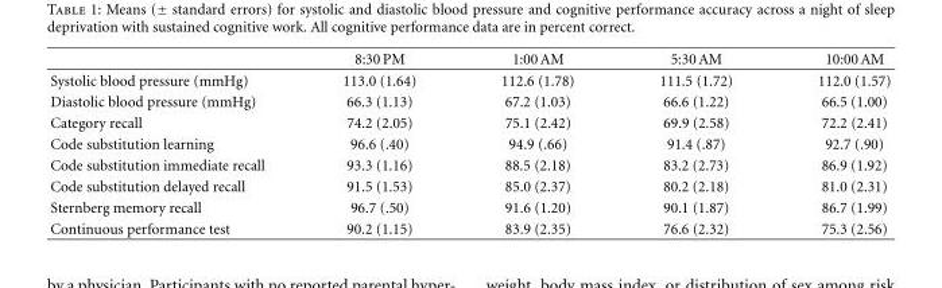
<table><thead><tr><td></td><td>8:30 PM</td><td>1:00 AM</td><td>5:30 AM</td><td>10:00 AM</td></tr></thead><tbody><tr><td>Systolic blood pressure (mmHg)</td><td>113.0 (1.64)</td><td>112.6 (1.78)</td><td>111.5 (1.72)</td><td>112.0 (1.57)</td></tr><tr><td>Diastolic blood pressure (mmHg)</td><td>66.3 (1.13)</td><td>67.2 (1.03)</td><td>66.6 (1.22)</td><td>66.5 (1.00)</td></tr><tr><td>Category recall</td><td>74.2 (2.05)</td><td>75.1 (2.42)</td><td>69.9 (2.58)</td><td>72.2 (2.41)</td></tr><tr><td>Code substitution learning</td><td>96.6 (.40)</td><td>94.9 (.66)</td><td>91.4 (.87)</td><td>92.7 (.90)</td></tr><tr><td>Code substitution immediate recall</td><td>93.3 (1.16)</td><td>88.5 (2.18)</td><td>83.2 (2.73)</td><td>86.9 (1.92)</td></tr><tr><td>Code substitution delayed recall</td><td>91.5 (1.53)</td><td>85.0 (2.37)</td><td>80.2 (2.18)</td><td>81.0 (2.31)</td></tr><tr><td>Sternberg memory recall</td><td>96.7 (.50)</td><td>91.6 (1.20)</td><td>90.1 (1.87)</td><td>86.7 (1.99)</td></tr><tr><td>Continuous performance test</td><td>90.2 (1.15)</td><td>83.9 (2.35)</td><td>76.6 (2.32)</td><td>75.3 (2.56)</td></tr></tbody></table>